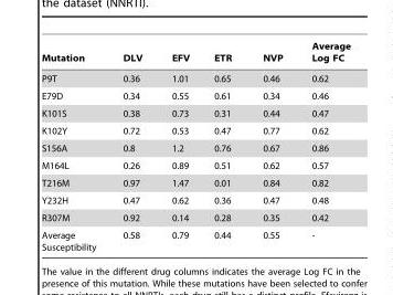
<table><thead><tr><td>Mutation</td><td>DLV</td><td>EFV</td><td>ETR</td><td>NVP</td><td>Average Log FC</td></tr></thead><tbody><tr><td>P9T</td><td>0.36</td><td>1.01</td><td>0.65</td><td>0.46</td><td>0.62</td></tr><tr><td>E79D</td><td>0.34</td><td>0.55</td><td>0.61</td><td>0.34</td><td>0.46</td></tr><tr><td>K101S</td><td>0.38</td><td>0.73</td><td>0.31</td><td>0.44</td><td>0.47</td></tr><tr><td>K102Y</td><td>0.72</td><td>0.53</td><td>0.47</td><td>0.77</td><td>0.62</td></tr><tr><td>S156A</td><td>0.8</td><td>1.2</td><td>0.76</td><td>0.67</td><td>0.86</td></tr><tr><td>M164L</td><td>0.26</td><td>0.89</td><td>0.51</td><td>0.62</td><td>0.57</td></tr><tr><td>T216M</td><td>0.97</td><td>1.47</td><td>0.01</td><td>0.84</td><td>0.82</td></tr><tr><td>Y232H</td><td>0.47</td><td>0.62</td><td>0.36</td><td>0.47</td><td>0.48</td></tr><tr><td>R307M</td><td>0.92</td><td>0.14</td><td>0.28</td><td>0.35</td><td>0.42</td></tr><tr><td>Average Susceptibility</td><td>0.58</td><td>0.79</td><td>0.44</td><td>0.55</td><td>-</td></tr></tbody></table>